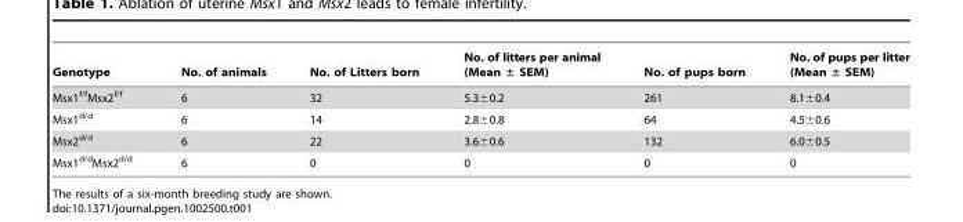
<table><thead><tr><td>Genotype</td><td>No. of animals</td><td>No. of Litters born</td><td>No. of litters per animal (Mean ± SEM)</td><td>No. of pups born</td><td>No. of pups per litter (Mean ± SEM)</td></tr></thead><tbody><tr><td>Msx1<sup>f/f</sup>Msx2<sup>f/f</sup></td><td>6</td><td>32</td><td>5.3±0.2</td><td>261</td><td>8.1±0.4</td></tr><tr><td>Msx1<sup>d/d</sup></td><td>6</td><td>14</td><td>2.8±0.8</td><td>64</td><td>4.5±0.6</td></tr><tr><td>Msx2<sup>d/d</sup></td><td>6</td><td>22</td><td>3.6±0.6</td><td>132</td><td>6.0±0.5</td></tr><tr><td>Msx1<sup>d/d</sup>Msx2<sup>d/d</sup></td><td>6</td><td>0</td><td>0</td><td>0</td><td>0</td></tr></tbody></table>